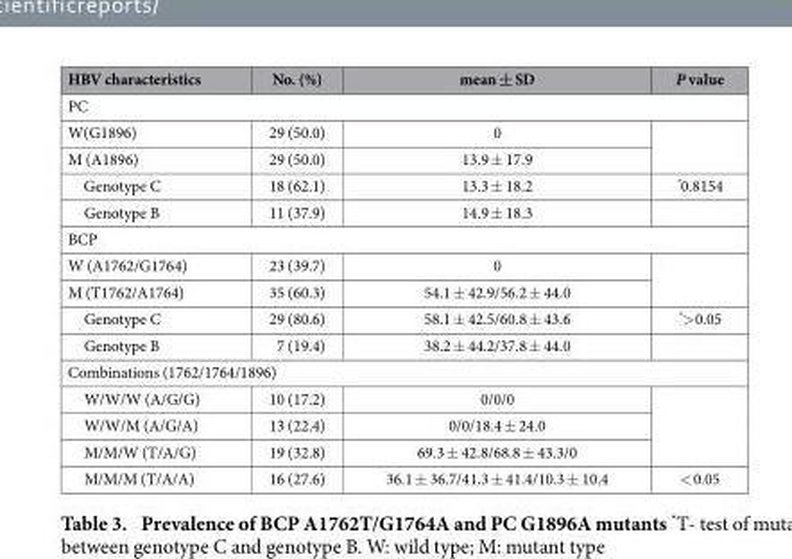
<table><thead><tr><td>HBV characteristics</td><td>No. (%)</td><td>mean ± SD</td><td>P value</td></tr></thead><tbody><tr><td colspan="4">PC</td></tr><tr><td>W(G1896)</td><td>29 (50.0)</td><td>0</td><td rowspan="2"></td></tr><tr><td>M (A1896)</td><td>29 (50.0)</td><td>13.9 ± 17.9</td></tr><tr><td>Genotype C</td><td>18 (62.1)</td><td>13.3 ± 18.2</td><td>*0.8154</td></tr><tr><td>Genotype B</td><td>11 (37.9)</td><td>14.9 ± 18.3</td><td></td></tr><tr><td colspan="4">BCP</td></tr><tr><td>W (A1762/G1764)</td><td>23 (39.7)</td><td>0</td><td rowspan="2"></td></tr><tr><td>M (T1762/A1764)</td><td>35 (60.3)</td><td>54.1 ± 42.9/56.2 ± 44.0</td></tr><tr><td>Genotype C</td><td>29 (80.6)</td><td>58.1 ± 42.5/60.8 ± 43.6</td><td>*&gt; 0.05</td></tr><tr><td>Genotype B</td><td>7 (19.4)</td><td>38.2 ± 44.2/37.8 ± 44.0</td><td></td></tr><tr><td colspan="4">Combinations (1762/1764/1896)</td></tr><tr><td>W/W/W (A/G/G)</td><td>10 (17.2)</td><td>0/0/0</td><td rowspan="3"></td></tr><tr><td>W/W/M (A/G/A)</td><td>13 (22.4)</td><td>0/0/18.4 ± 24.0</td></tr><tr><td>M/M/W (T/A/G)</td><td>19 (32.8)</td><td>69.3 ± 42.8/68.8 ± 43.3/0</td></tr><tr><td>M/M/M (T/A/A)</td><td>16 (27.6)</td><td>36.1 ± 36.7/41.3 ± 41.4/10.3 ± 10.4</td><td>&lt; 0.05</td></tr></tbody></table>